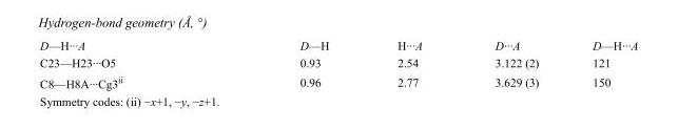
<table><tbody><tr><td>D—H···A</td><td>D—H</td><td>H···A</td><td>D···A</td><td>D—H···A</td></tr><tr><td>C23—H23···O5</td><td>0.93</td><td>2.54</td><td>3.122 (2)</td><td>121</td></tr><tr><td>C8—H8A···Cg3<sup>ii</sup></td><td>0.96</td><td>2.77</td><td>3.629 (3)</td><td>150</td></tr></tbody></table>